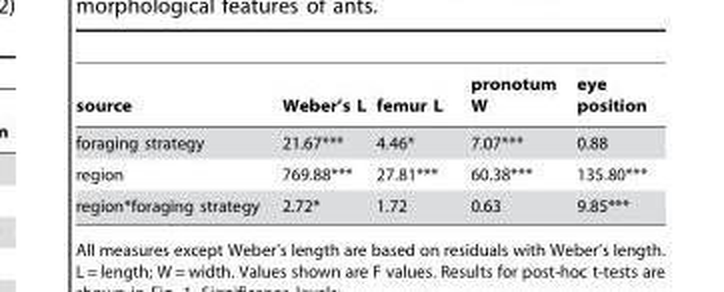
<table><thead><tr><td>source</td><td>Weber’s L</td><td>femur L</td><td>pronotum W</td><td>eye position</td></tr></thead><tbody><tr><td>foraging strategy</td><td>21.67***</td><td>4.46*</td><td>7.07***</td><td>0.88</td></tr><tr><td>region</td><td>769.88***</td><td>27.81***</td><td>60.38***</td><td>135.80***</td></tr><tr><td>region*foraging strategy</td><td>2.72*</td><td>1.72</td><td>0.63</td><td>9.85***</td></tr></tbody></table>